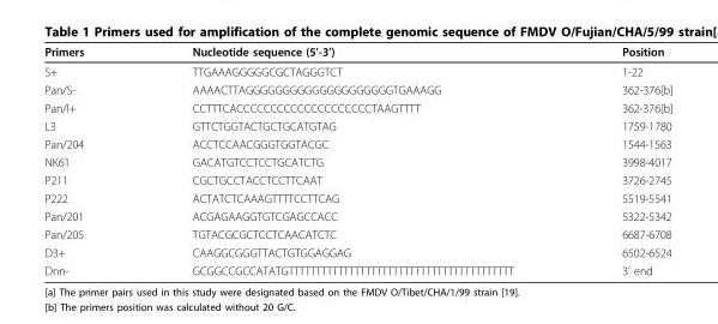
<table><thead><tr><td>Primers</td><td>Nucleotide sequence (5’-3’)</td><td>Position</td></tr></thead><tbody><tr><td>S+</td><td>TTGAAAGGGGGCGCTAGGGTCT</td><td>1-22</td></tr><tr><td>Pan/S-</td><td>AAAACTTAGGGGGGGGGGGGGGGGGGGGTGAAAGG</td><td>362-376[b]</td></tr><tr><td>Pan/I+</td><td>CCTTTCACCCCCCCCCCCCCCCCCCCCTAAGTTTT</td><td>362-376[b]</td></tr><tr><td>L3</td><td>GTTCTGGTACTGCTGCATGTAG</td><td>1759-1780</td></tr><tr><td>Pan/204</td><td>ACCTCCAACGGGTGGTACGC</td><td>1544-1563</td></tr><tr><td>NK61</td><td>GACATGTCCTCCTGCATCTG</td><td>3998-4017</td></tr><tr><td>P211</td><td>CGCTGCCTACCTCCTTCAAT</td><td>3726-2745</td></tr><tr><td>P222</td><td>ACTATCTCAAAGTTTTCCTTCAG</td><td>5519-5541</td></tr><tr><td>Pan/201</td><td>ACGAGAAGGTGTCGAGCCACC</td><td>5322-5342</td></tr><tr><td>Pan/205</td><td>TGTACGCGCTCCTCAACATCTC</td><td>6687-6708</td></tr><tr><td>D3+</td><td>CAAGGCGGGTTACTGTGGAGGAG</td><td>6502-6524</td></tr><tr><td>Dnn-</td><td>GCGGCCGCCATATGTTTTTTTTTTTTTTTTTTTTTTTTTTTTTTTTTTTTTTTTT</td><td>3’ end</td></tr></tbody></table>